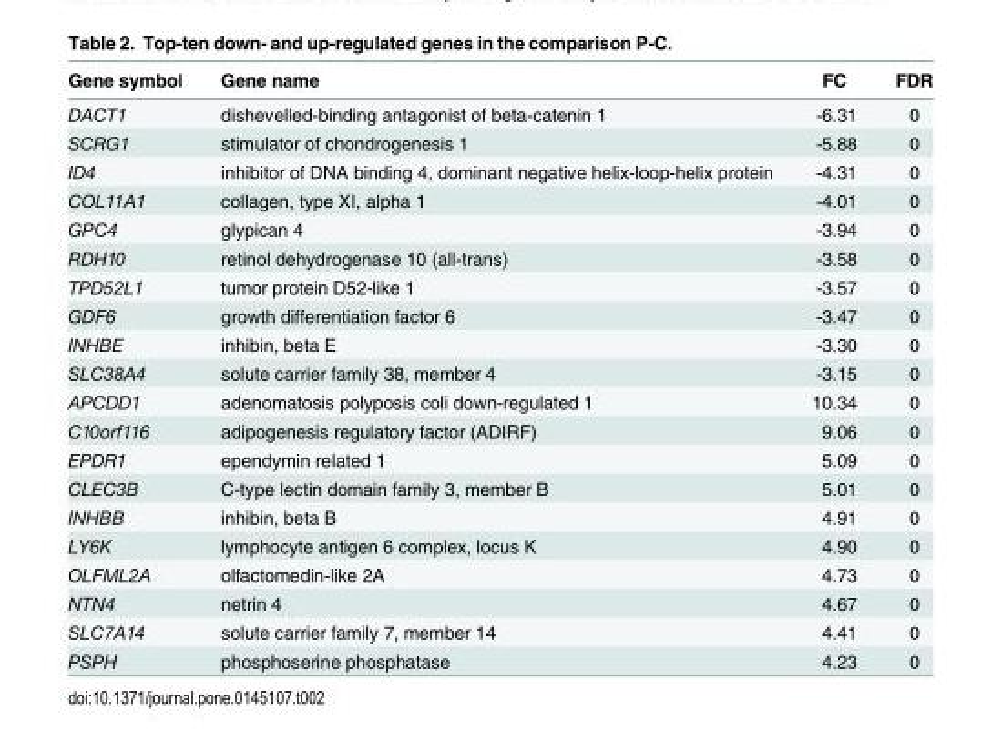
<table><thead><tr><td>Gene symbol</td><td>Gene name</td><td>FC</td><td>FDR</td></tr></thead><tbody><tr><td>DACT1</td><td>dishevelled-binding antagonist of beta-catenin 1</td><td>-6.31</td><td>0</td></tr><tr><td>SCRG1</td><td>stimulator of chondrogenesis 1</td><td>-5.88</td><td>0</td></tr><tr><td>ID4</td><td>inhibitor of DNA binding 4, dominant negative helix-loop-helix protein</td><td>-4.31</td><td>0</td></tr><tr><td>COL11A1</td><td>collagen, type XI, alpha 1</td><td>-4.01</td><td>0</td></tr><tr><td>GPC4</td><td>glypican 4</td><td>-3.94</td><td>0</td></tr><tr><td>RDH10</td><td>retinol dehydrogenase 10 (all-trans)</td><td>-3.58</td><td>0</td></tr><tr><td>TPD52L1</td><td>tumor protein D52-like 1</td><td>-3.57</td><td>0</td></tr><tr><td>GDF6</td><td>growth differentiation factor 6</td><td>-3.47</td><td>0</td></tr><tr><td>INHBE</td><td>inhibin, beta E</td><td>-3.30</td><td>0</td></tr><tr><td>SLC38A4</td><td>solute carrier family 38, member 4</td><td>-3.15</td><td>0</td></tr><tr><td>APCDD1</td><td>adenomatosis polyposis coli down-regulated 1</td><td>10.34</td><td>0</td></tr><tr><td>C10orf116</td><td>adipogenesis regulatory factor (ADIRF)</td><td>9.06</td><td>0</td></tr><tr><td>EPDR1</td><td>ependymin related 1</td><td>5.09</td><td>0</td></tr><tr><td>CLEC3B</td><td>C-type lectin domain family 3, member B</td><td>5.01</td><td>0</td></tr><tr><td>INHBB</td><td>inhibin, beta B</td><td>4.91</td><td>0</td></tr><tr><td>LY6K</td><td>lymphocyte antigen 6 complex, locus K</td><td>4.90</td><td>0</td></tr><tr><td>OLFML2A</td><td>olfactomedin-like 2A</td><td>4.73</td><td>0</td></tr><tr><td>NTN4</td><td>netrin 4</td><td>4.67</td><td>0</td></tr><tr><td>SLC7A14</td><td>solute carrier family 7, member 14</td><td>4.41</td><td>0</td></tr><tr><td>PSPH</td><td>phosphoserine phosphatase</td><td>4.23</td><td>0</td></tr></tbody></table>